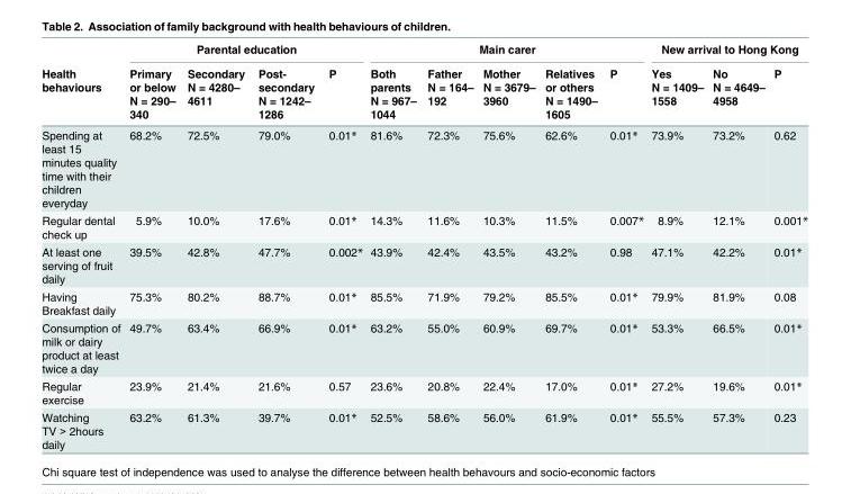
<table><thead><tr><td rowspan="2">Health behaviours</td><td colspan="4">Parental education</td><td colspan="5">Main carer</td><td colspan="3">New arrival to Hong Kong</td></tr><tr><td>Primary or below N = 290– 340</td><td>Secondary N = 4280– 4611</td><td>Post- secondary N = 1242– 1286</td><td>P</td><td>Both parents N = 967– 1044</td><td>Father N = 164– 192</td><td>Mother N = 3679– 3960</td><td>Relatives or others N = 1490– 1605</td><td>P</td><td>Yes N = 1409– 1558</td><td>No N = 4649– 4958</td><td>P</td></tr></thead><tbody><tr><td>Spending at least 15 minutes quality time with their children everyday</td><td>68.2%</td><td>72.5%</td><td>79.0%</td><td>0.01*</td><td>81.6%</td><td>72.3%</td><td>75.6%</td><td>62.6%</td><td>0.01*</td><td>73.9%</td><td>73.2%</td><td>0.62</td></tr><tr><td>Regular dental check up</td><td>5.9%</td><td>10.0%</td><td>17.6%</td><td>0.01*</td><td>14.3%</td><td>11.6%</td><td>10.3%</td><td>11.5%</td><td>0.007*</td><td>8.9%</td><td>12.1%</td><td>0.001*</td></tr><tr><td>At least one serving of fruit daily</td><td>39.5%</td><td>42.8%</td><td>47.7%</td><td>0.002*</td><td>43.9%</td><td>42.4%</td><td>43.5%</td><td>43.2%</td><td>0.98</td><td>47.1%</td><td>42.2%</td><td>0.01*</td></tr><tr><td>Having Breakfast daily</td><td>75.3%</td><td>80.2%</td><td>88.7%</td><td>0.01*</td><td>85.5%</td><td>71.9%</td><td>79.2%</td><td>85.5%</td><td>0.01*</td><td>79.9%</td><td>81.9%</td><td>0.08</td></tr><tr><td>Consumption of milk or dairy product at least twice a day</td><td>49.7%</td><td>63.4%</td><td>66.9%</td><td>0.01*</td><td>63.2%</td><td>55.0%</td><td>60.9%</td><td>69.7%</td><td>0.01*</td><td>53.3%</td><td>66.5%</td><td>0.01*</td></tr><tr><td>Regular exercise</td><td>23.9%</td><td>21.4%</td><td>21.6%</td><td>0.57</td><td>23.6%</td><td>20.8%</td><td>22.4%</td><td>17.0%</td><td>0.01*</td><td>27.2%</td><td>19.6%</td><td>0.01*</td></tr><tr><td>Watching TV &gt; 2hours daily</td><td>63.2%</td><td>61.3%</td><td>39.7%</td><td>0.01*</td><td>52.5%</td><td>58.6%</td><td>56.0%</td><td>61.9%</td><td>0.01*</td><td>55.5%</td><td>57.3%</td><td>0.23</td></tr></tbody></table>